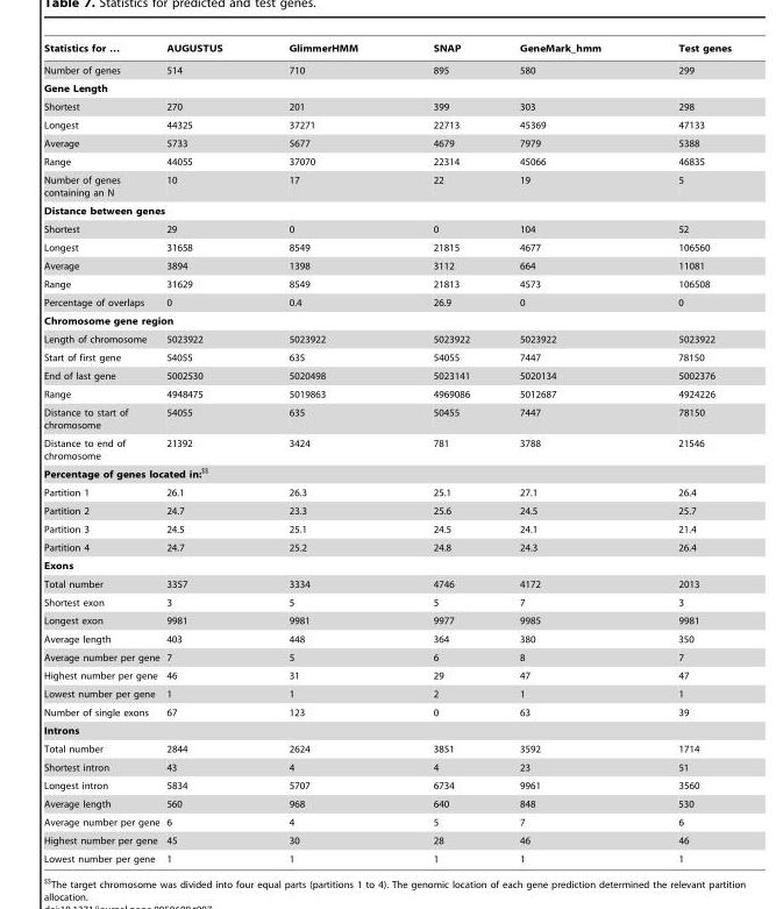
<table><thead><tr><td>Statistics for …</td><td>AUGUSTUS</td><td>GlimmerHMM</td><td>SNAP</td><td>GeneMark_hmm</td><td>Test genes</td></tr></thead><tbody><tr><td>Number of genes</td><td>514</td><td>710</td><td>895</td><td>580</td><td>299</td></tr><tr><td colspan="6">Gene Length</td></tr><tr><td>Shortest</td><td>270</td><td>201</td><td>399</td><td>303</td><td>298</td></tr><tr><td>Longest</td><td>44325</td><td>37271</td><td>22713</td><td>45369</td><td>47133</td></tr><tr><td>Average</td><td>5733</td><td>5677</td><td>4679</td><td>7979</td><td>5388</td></tr><tr><td>Range</td><td>44055</td><td>37070</td><td>22314</td><td>45066</td><td>46835</td></tr><tr><td>Number of genes containing an N</td><td>10</td><td>17</td><td>22</td><td>19</td><td>5</td></tr><tr><td colspan="6">Distance between genes</td></tr><tr><td>Shortest</td><td>29</td><td>0</td><td>0</td><td>104</td><td>52</td></tr><tr><td>Longest</td><td>31658</td><td>8549</td><td>21815</td><td>4677</td><td>106560</td></tr><tr><td>Average</td><td>3894</td><td>1398</td><td>3112</td><td>664</td><td>11081</td></tr><tr><td>Range</td><td>31629</td><td>8549</td><td>21813</td><td>4573</td><td>106508</td></tr><tr><td>Percentage of overlaps</td><td>0</td><td>0.4</td><td>26.9</td><td>0</td><td>0</td></tr><tr><td colspan="6">Chromosome gene region</td></tr><tr><td>Length of chromosome</td><td>5023922</td><td>5023922</td><td>5023922</td><td>5023922</td><td>5023922</td></tr><tr><td>Start of first gene</td><td>54055</td><td>635</td><td>54055</td><td>7447</td><td>78150</td></tr><tr><td>End of last gene</td><td>5002530</td><td>5020498</td><td>5023141</td><td>5020134</td><td>5002376</td></tr><tr><td>Range</td><td>4948475</td><td>5019863</td><td>4969086</td><td>5012687</td><td>4924226</td></tr><tr><td>Distance to start of chromosome</td><td>54055</td><td>635</td><td>50455</td><td>7447</td><td>78150</td></tr><tr><td>Distance to end of chromosome</td><td>21392</td><td>3424</td><td>781</td><td>3788</td><td>21546</td></tr><tr><td colspan="6">Percentage of genes located in:$$</td></tr><tr><td>Partition 1</td><td>26.1</td><td>26.3</td><td>25.1</td><td>27.1</td><td>26.4</td></tr><tr><td>Partition 2</td><td>24.7</td><td>23.3</td><td>25.6</td><td>24.5</td><td>25.7</td></tr><tr><td>Partition 3</td><td>24.5</td><td>25.1</td><td>24.5</td><td>24.1</td><td>21.4</td></tr><tr><td>Partition 4</td><td>24.7</td><td>25.2</td><td>24.8</td><td>24.3</td><td>26.4</td></tr><tr><td colspan="6">Exons</td></tr><tr><td>Total number</td><td>3357</td><td>3334</td><td>4746</td><td>4172</td><td>2013</td></tr><tr><td>Shortest exon</td><td>3</td><td>5</td><td>5</td><td>7</td><td>3</td></tr><tr><td>Longest exon</td><td>9981</td><td>9981</td><td>9977</td><td>9985</td><td>9981</td></tr><tr><td>Average length</td><td>403</td><td>448</td><td>364</td><td>380</td><td>350</td></tr><tr><td>Average number per gene</td><td>7</td><td>5</td><td>6</td><td>8</td><td>7</td></tr><tr><td>Highest number per gene</td><td>46</td><td>31</td><td>29</td><td>47</td><td>47</td></tr><tr><td>Lowest number per gene</td><td>1</td><td>1</td><td>2</td><td>1</td><td>1</td></tr><tr><td>Number of single exons</td><td>67</td><td>123</td><td>0</td><td>63</td><td>39</td></tr><tr><td colspan="6">Introns</td></tr><tr><td>Total number</td><td>2844</td><td>2624</td><td>3851</td><td>3592</td><td>1714</td></tr><tr><td>Shortest intron</td><td>43</td><td>4</td><td>4</td><td>23</td><td>51</td></tr><tr><td>Longest intron</td><td>5834</td><td>5707</td><td>6734</td><td>9961</td><td>3560</td></tr><tr><td>Average length</td><td>560</td><td>968</td><td>640</td><td>848</td><td>530</td></tr><tr><td>Average number per gene</td><td>6</td><td>4</td><td>5</td><td>7</td><td>6</td></tr><tr><td>Highest number per gene</td><td>45</td><td>30</td><td>28</td><td>46</td><td>46</td></tr><tr><td>Lowest number per gene</td><td>1</td><td>1</td><td>1</td><td>1</td><td>1</td></tr></tbody></table>